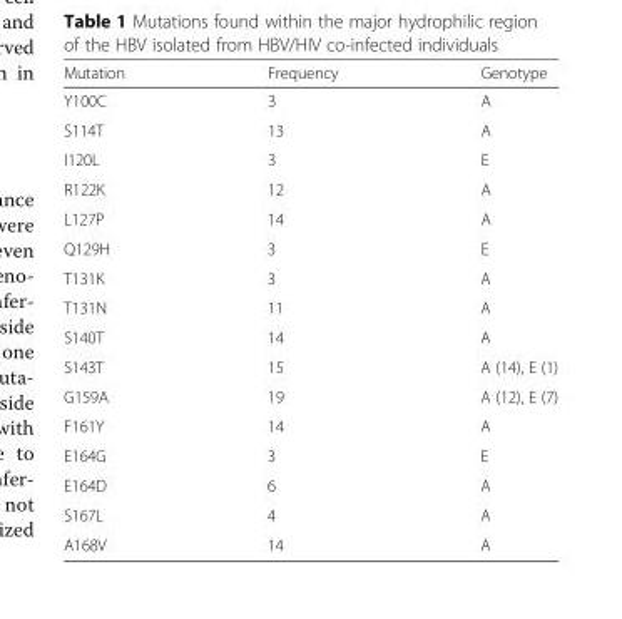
<table><thead><tr><td>Mutation</td><td>Frequency</td><td>Genotype</td></tr></thead><tbody><tr><td>Y100C</td><td>3</td><td>A</td></tr><tr><td>S114T</td><td>13</td><td>A</td></tr><tr><td>I120L</td><td>3</td><td>E</td></tr><tr><td>R122K</td><td>12</td><td>A</td></tr><tr><td>L127P</td><td>14</td><td>A</td></tr><tr><td>Q129H</td><td>3</td><td>E</td></tr><tr><td>T131K</td><td>3</td><td>A</td></tr><tr><td>T131N</td><td>11</td><td>A</td></tr><tr><td>S140T</td><td>14</td><td>A</td></tr><tr><td>S143T</td><td>15</td><td>A (14), E (1)</td></tr><tr><td>G159A</td><td>19</td><td>A (12), E (7)</td></tr><tr><td>F161Y</td><td>14</td><td>A</td></tr><tr><td>E164G</td><td>3</td><td>E</td></tr><tr><td>E164D</td><td>6</td><td>A</td></tr><tr><td>S167L</td><td>4</td><td>A</td></tr><tr><td>A168V</td><td>14</td><td>A</td></tr></tbody></table>